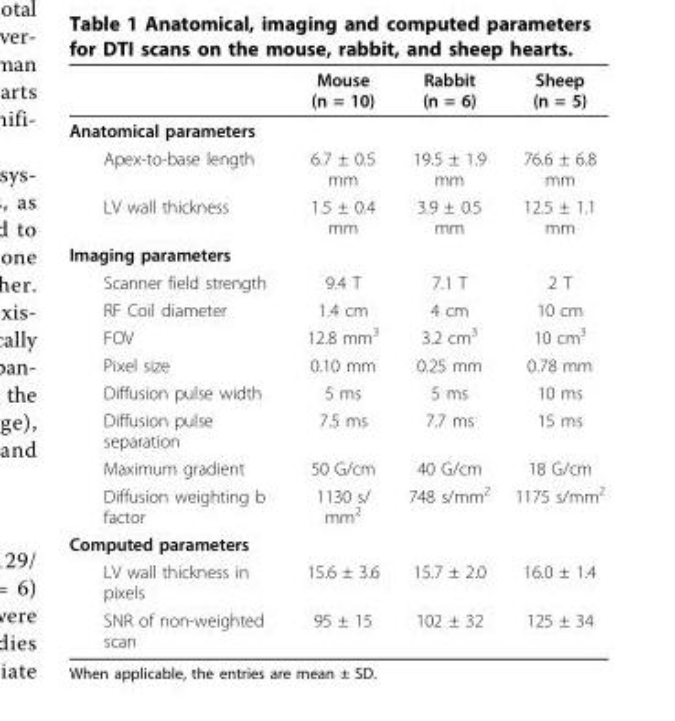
<table><thead><tr><td></td><td>Mouse (n = 10)</td><td>Rabbit (n = 6)</td><td>Sheep (n = 5)</td></tr></thead><tbody><tr><td colspan="4">Anatomical parameters</td></tr><tr><td>Apex-to-base length</td><td>6.7 ± 0.5 mm</td><td>19.5 ± 1.9 mm</td><td>76.6 ± 6.8 mm</td></tr><tr><td>LV wall thickness</td><td>1.5 ± 0.4 mm</td><td>3.9 ± 0.5 mm</td><td>12.5 ± 1.1 mm</td></tr><tr><td colspan="4">Imaging parameters</td></tr><tr><td>Scanner field strength</td><td>9.4 T</td><td>7.1 T</td><td>2 T</td></tr><tr><td>RF Coil diameter</td><td>1.4 cm</td><td>4 cm</td><td>10 cm</td></tr><tr><td>FOV</td><td>12.8 mm<sup>3</sup></td><td>3.2 cm<sup>3</sup></td><td>10 cm<sup>3</sup></td></tr><tr><td>Pixel size</td><td>0.10 mm</td><td>0.25 mm</td><td>0.78 mm</td></tr><tr><td>Diffusion pulse width</td><td>5 ms</td><td>5 ms</td><td>10 ms</td></tr><tr><td>Diffusion pulse separation</td><td>7.5 ms</td><td>7.7 ms</td><td>15 ms</td></tr><tr><td>Maximum gradient</td><td>50 G/cm</td><td>40 G/cm</td><td>18 G/cm</td></tr><tr><td>Diffusion weighting b factor</td><td>1130 s/ mm<sup>2</sup></td><td>748 s/mm<sup>2</sup></td><td>1175 s/mm<sup>2</sup></td></tr><tr><td colspan="4">Computed parameters</td></tr><tr><td>LV wall thickness in pixels</td><td>15.6 ± 3.6</td><td>15.7 ± 2.0</td><td>16.0 ± 1.4</td></tr><tr><td>SNR of non-weighted scan</td><td>95 ± 15</td><td>102 ± 32</td><td>125 ± 34</td></tr></tbody></table>